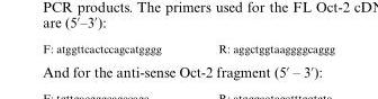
<table><tbody><tr><td>F: atggttcactccagcatgggg</td><td>R: aggctggtaaggggcaggg</td></tr></tbody></table>